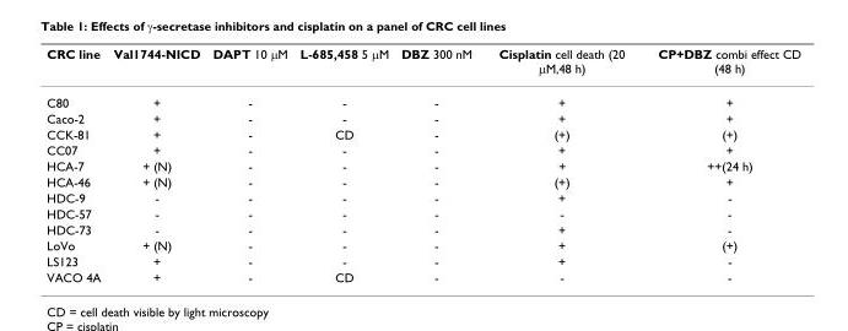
<table><thead><tr><td>CRC line</td><td>Val1744-NICD</td><td>DAPT 10 μM</td><td>L-685,458 5 μM</td><td>DBZ 300 nM</td><td>Cisplatin cell death (20 μM,48 h)</td><td>CP+DBZ combi effect CD (48 h)</td></tr></thead><tbody><tr><td>C80</td><td>+</td><td>-</td><td>-</td><td>-</td><td>+</td><td>+</td></tr><tr><td>Caco-2</td><td>+</td><td>-</td><td>-</td><td>-</td><td>+</td><td>+</td></tr><tr><td>CCK-81</td><td>+</td><td>-</td><td>CD</td><td>-</td><td>(+)</td><td>(+)</td></tr><tr><td>CC07</td><td>+</td><td>-</td><td>-</td><td>-</td><td>+</td><td>+</td></tr><tr><td>HCA-7</td><td>+ (N)</td><td>-</td><td>-</td><td>-</td><td>+</td><td>++(24 h)</td></tr><tr><td>HCA-46</td><td>+ (N)</td><td>-</td><td>-</td><td>-</td><td>(+)</td><td>+</td></tr><tr><td>HDC-9</td><td>-</td><td>-</td><td>-</td><td>-</td><td>+</td><td>-</td></tr><tr><td>HDC-57</td><td>-</td><td>-</td><td>-</td><td>-</td><td>-</td><td>-</td></tr><tr><td>HDC-73</td><td>-</td><td>-</td><td>-</td><td>-</td><td>+</td><td>-</td></tr><tr><td>LoVo</td><td>+ (N)</td><td>-</td><td>-</td><td>-</td><td>+</td><td>(+)</td></tr><tr><td>LS123</td><td>+</td><td>-</td><td>-</td><td>-</td><td>+</td><td>-</td></tr><tr><td>VACO 4A</td><td>+</td><td>-</td><td>CD</td><td>-</td><td>-</td><td>-</td></tr></tbody></table>